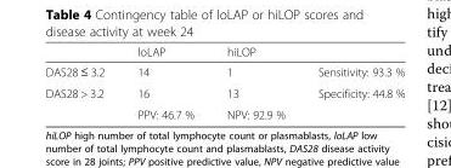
<table><thead><tr><td></td><td>loLAP</td><td>hiLOP</td><td></td></tr></thead><tbody><tr><td>DAS28 ≤ 3.2</td><td>14</td><td>1</td><td>Sensitivity: 93.3 %</td></tr><tr><td rowspan="2">DAS28 &gt; 3.2</td><td>16</td><td>13</td><td>Specificity: 44.8 %</td></tr><tr><td>PPV: 46.7 %</td><td>NPV: 92.9 %</td><td></td></tr></tbody></table>